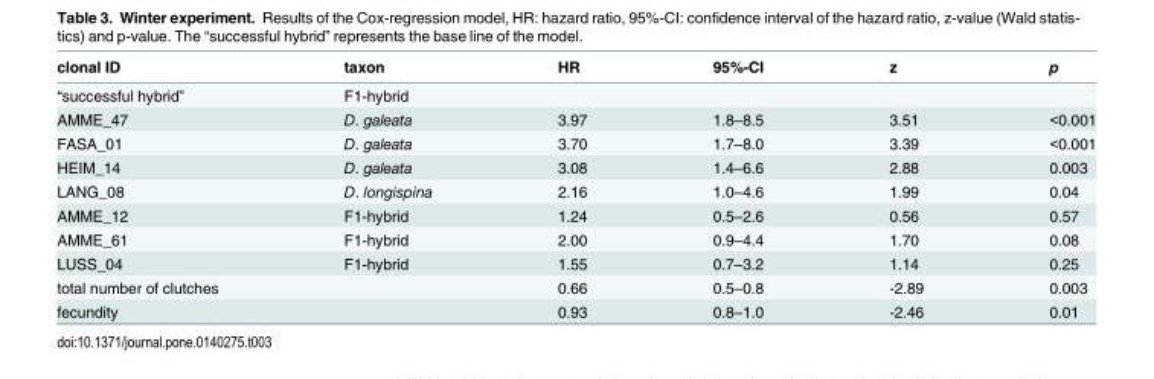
<table><thead><tr><td>clonal ID</td><td>taxon</td><td>HR</td><td>95%-CI</td><td>z</td><td>p</td></tr></thead><tbody><tr><td>“successful hybrid”</td><td>F1-hybrid</td><td></td><td></td><td></td><td></td></tr><tr><td>AMME_47</td><td>D. galeata</td><td>3.97</td><td>1.8–8.5</td><td>3.51</td><td>&lt;0.001</td></tr><tr><td>FASA_01</td><td>D. galeata</td><td>3.70</td><td>1.7–8.0</td><td>3.39</td><td>&lt;0.001</td></tr><tr><td>HEIM_14</td><td>D. galeata</td><td>3.08</td><td>1.4–6.6</td><td>2.88</td><td>0.003</td></tr><tr><td>LANG_08</td><td>D. longispina</td><td>2.16</td><td>1.0–4.6</td><td>1.99</td><td>0.04</td></tr><tr><td>AMME_12</td><td>F1-hybrid</td><td>1.24</td><td>0.5–2.6</td><td>0.56</td><td>0.57</td></tr><tr><td>AMME_61</td><td>F1-hybrid</td><td>2.00</td><td>0.9–4.4</td><td>1.70</td><td>0.08</td></tr><tr><td>LUSS_04</td><td>F1-hybrid</td><td>1.55</td><td>0.7–3.2</td><td>1.14</td><td>0.25</td></tr><tr><td>total number of clutches</td><td></td><td>0.66</td><td>0.5–0.8</td><td>-2.89</td><td>0.003</td></tr><tr><td>fecundity</td><td></td><td>0.93</td><td>0.8–1.0</td><td>-2.46</td><td>0.01</td></tr></tbody></table>